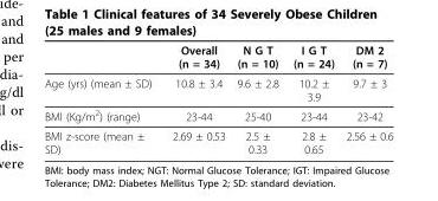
<table><thead><tr><td></td><td>Overall (n = 34)</td><td>N G T (n = 10)</td><td>I G T (n = 24)</td><td>DM 2 (n = 7)</td></tr></thead><tbody><tr><td>Age (yrs) (mean ± SD)</td><td>10.8 ± 3.4</td><td>9.6 ± 2.8</td><td>10.2 ± 3.9</td><td>9.7 ± 3</td></tr><tr><td>BMI (Kg/m<sup>2</sup>) (range)</td><td>23-44</td><td>25-40</td><td>23-44</td><td>23-42</td></tr><tr><td>BMI z-score (mean ± SD)</td><td>2.69 ± 0.53</td><td>2.5 ± 0.33</td><td>2.8 ± 0.65</td><td>2.56 ± 0.6</td></tr></tbody></table>